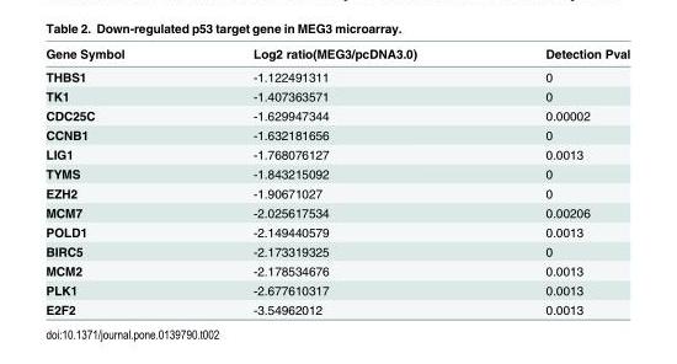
<table><thead><tr><td>Gene Symbol</td><td>Log2 ratio(MEG3/pcDNA3.0)</td><td>Detection Pval</td></tr></thead><tbody><tr><td>THBS1</td><td>-1.122491311</td><td>0</td></tr><tr><td>TK1</td><td>-1.407363571</td><td>0</td></tr><tr><td>CDC25C</td><td>-1.629947344</td><td>0.00002</td></tr><tr><td>CCNB1</td><td>-1.632181656</td><td>0</td></tr><tr><td>LIG1</td><td>-1.768076127</td><td>0.0013</td></tr><tr><td>TYMS</td><td>-1.843215092</td><td>0</td></tr><tr><td>EZH2</td><td>-1.90671027</td><td>0</td></tr><tr><td>MCM7</td><td>-2.025617534</td><td>0.00206</td></tr><tr><td>POLD1</td><td>-2.149440579</td><td>0.0013</td></tr><tr><td>BIRC5</td><td>-2.173319325</td><td>0</td></tr><tr><td>MCM2</td><td>-2.178534676</td><td>0.0013</td></tr><tr><td>PLK1</td><td>-2.677610317</td><td>0.0013</td></tr><tr><td>E2F2</td><td>-3.54962012</td><td>0.0013</td></tr></tbody></table>